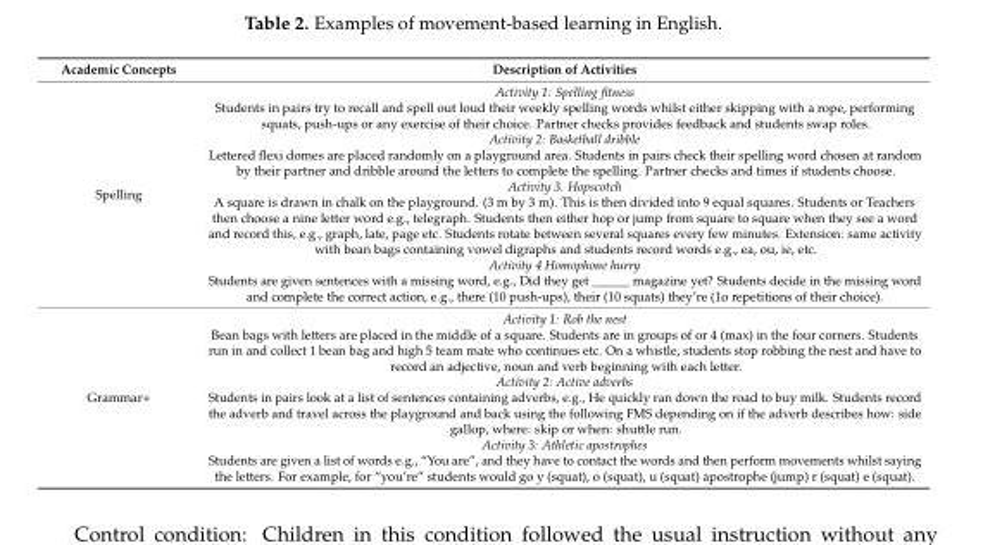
<table><thead><tr><td>Academic Concepts</td><td>Description of Activities</td></tr></thead><tbody><tr><td>Spelling</td><td>Activity 1: Spelling fitness Students in pairs try to recall and spell out loud their weekly spelling words whilst either skipping with a rope, performing squats, push-ups or any exercise of their choice. Partner checks provides feedback and students swap roles. Activity 2: Basketball dribble Lettered flexi domes are placed randomly on a playground area. Students in pairs check their spelling word chosen at random by their partner and dribble around the letters to complete the spelling. Partner checks and times if students choose. Activity 3. Hopscotch A square is drawn in chalk on the playground. (3 m by 3 m). This is then divided into 9 equal squares. Students or Teachers then choose a nine letter word e.g., telegraph. Students then either hop or jump from square to square when they see a word and record this, e.g., graph, late, page etc. Students rotate between several squares every few minutes. Extension: same activity with bean bags containing vowel digraphs and students record words e.g., ea, ou, ie, etc. Activity 4 Homophone hurry Students are given sentences with a missing word, e.g., Did they get ______ magazine yet? Students decide in the missing word and complete the correct action, e.g., there (10 push-ups), their (10 squats) they’re (1o repetitions of their choice).</td></tr><tr><td>Grammar+</td><td>Activity 1: Rob the nest Bean bags with letters are placed in the middle of a square. Students are in groups of or 4 (max) in the four corners. Students run in and collect 1 bean bag and high 5 team mate who continues etc. On a whistle, students stop robbing the nest and have to record an adjective, noun and verb beginning with each letter. Activity 2: Active adverbs Students in pairs look at a list of sentences containing adverbs, e.g., He quickly ran down the road to buy milk. Students record the adverb and travel across the playground and back using the following FMS depending on if the adverb describes how: side gallop, where: skip or when: shuttle run. Activity 3: Athletic apostrophes Students are given a list of words e.g., “You are”, and they have to contact the words and then perform movements whilst saying the letters. For example, for “you’re” students would go y (squat), o (squat), u (squat) apostrophe (jump) r (squat) e (squat).</td></tr></tbody></table>